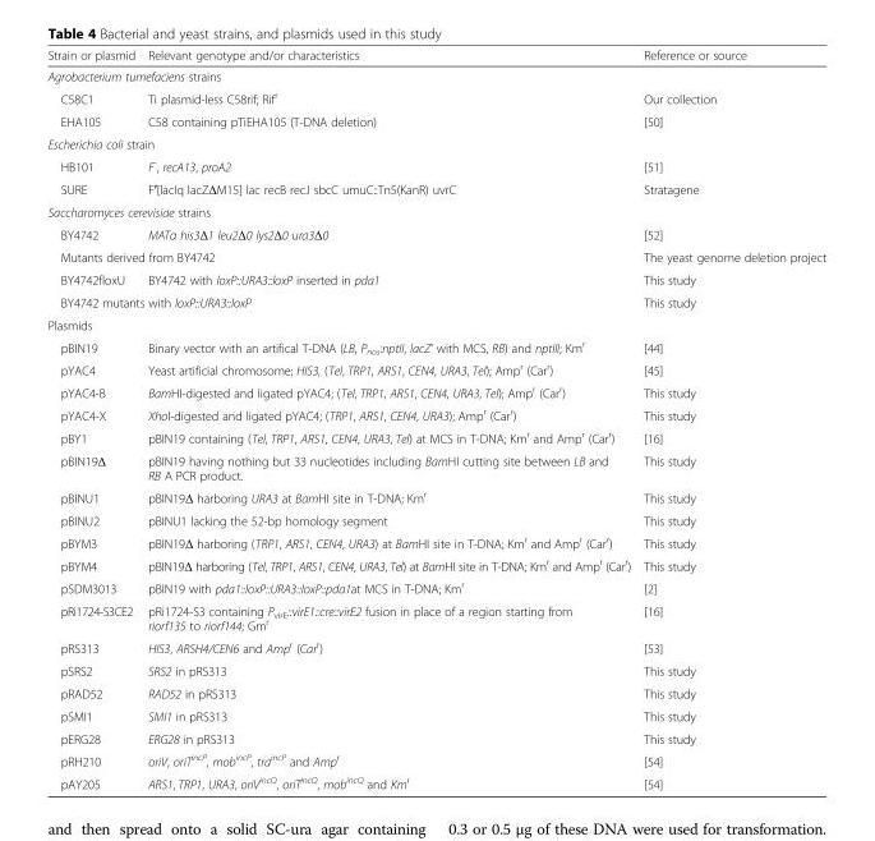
<table><thead><tr><td>Strain or plasmid</td><td>Relevant genotype and/or characteristics</td><td>Reference or source</td></tr></thead><tbody><tr><td colspan="3">Agrobacterium tumefaciens strains</td></tr><tr><td>C58C1</td><td>Ti plasmid-less C58rif; Rif<sup>r</sup></td><td>Our collection</td></tr><tr><td>EHA105</td><td>C58 containing pTiEHA105 (T-DNA deletion)</td><td>[50]</td></tr><tr><td colspan="3">Escherichia coli strain</td></tr><tr><td>HB101</td><td>F<sup>-</sup>, recA13, proA2</td><td>[51]</td></tr><tr><td>SURE</td><td>F′[lacIq lacZΔM15] lac recB recJ sbcC umuC::Tn5(KanR) uvrC</td><td>Stratagene</td></tr><tr><td colspan="3">Saccharomyces cerevisiae strains</td></tr><tr><td>BY4742</td><td>MATα his3Δ1 leu2Δ0 lys2Δ0 ura3Δ0</td><td>[52]</td></tr><tr><td colspan="2">Mutants derived from BY4742</td><td>The yeast genome deletion project</td></tr><tr><td>BY4742floxU</td><td>BY4742 with loxP::URA3::loxP inserted in pda1</td><td>This study</td></tr><tr><td colspan="2">BY4742 mutants with loxP::URA3::loxP</td><td>This study</td></tr><tr><td colspan="3">Plasmids</td></tr><tr><td>pBIN19</td><td>Binary vector with an artifical T-DNA (LB, P<sub>nos</sub>:nptII, lacZ’ with MCS, RB) and nptIII; Km<sup>r</sup></td><td>[44]</td></tr><tr><td>pYAC4</td><td>Yeast artificial chromosome; HIS3, (Tel, TRP1, ARS1, CEN4, URA3, Tel); Amp<sup>r</sup> (Car<sup>r</sup>)</td><td>[45]</td></tr><tr><td>pYAC4-B</td><td>BamHI-digested and ligated pYAC4; (Tel, TRP1, ARS1, CEN4, URA3, Tel); Amp<sup>r</sup> (Car<sup>r</sup>)</td><td>This study</td></tr><tr><td>pYAC4-X</td><td>XhoI-digested and ligated pYAC4; (TRP1, ARS1, CEN4, URA3); Amp<sup>r</sup> (Car<sup>r</sup>)</td><td>This study</td></tr><tr><td>pBY1</td><td>pBIN19 containing (Tel, TRP1, ARS1, CEN4, URA3, Tel) at MCS in T-DNA; Km<sup>r</sup> and Amp<sup>r</sup> (Car<sup>r</sup>)</td><td>[16]</td></tr><tr><td>pBIN19Δ</td><td>pBIN19 having nothing but 33 nucleotides including BamHI cutting site between LB and RB A PCR product.</td><td>This study</td></tr><tr><td>pBINU1</td><td>pBIN19Δ harboring URA3 at BamHI site in T-DNA; Km<sup>r</sup></td><td>This study</td></tr><tr><td>pBINU2</td><td>pBINU1 lacking the 52-bp homology segment</td><td>This study</td></tr><tr><td>pBYM3</td><td>pBIN19Δ harboring (TRP1, ARS1, CEN4, URA3) at BamHI site in T-DNA; Km<sup>r</sup> and Amp<sup>r</sup> (Car<sup>r</sup>)</td><td>This study</td></tr><tr><td>pBYM4</td><td>pBIN19Δ harboring (Tel, TRP1, ARS1, CEN4, URA3, Tel) at BamHI site in T-DNA; Km<sup>r</sup> and Amp<sup>r</sup> (Car<sup>r</sup>)</td><td>This study</td></tr><tr><td>pSDM3013</td><td>pBIN19 with pda1::loxP::URA3::loxP::pda1at MCS in T-DNA; Km<sup>r</sup></td><td>[2]</td></tr><tr><td>pRi1724-S3CE2</td><td>pRi1724-S3 containing P<sub>virE</sub>::virE1::cre::virE2 fusion in place of a region starting from riorf135 to riorf144; Gm<sup>r</sup></td><td>[16]</td></tr><tr><td>pRS313</td><td>HIS3, ARSH4/CEN6 and Amp<sup>r</sup> (Car<sup>r</sup>)</td><td>[53]</td></tr><tr><td>pSRS2</td><td>SRS2 in pRS313</td><td>This study</td></tr><tr><td>pRAD52</td><td>RAD52 in pRS313</td><td>This study</td></tr><tr><td>pSMI1</td><td>SMI1 in pRS313</td><td>This study</td></tr><tr><td>pERG28</td><td>ERG28 in pRS313</td><td>This study</td></tr><tr><td>pRH210</td><td>oriV, oriT<sup>incP</sup>, mob<sup>incP</sup>, tra<sup>incP</sup> and Amp<sup>r</sup></td><td>[54]</td></tr><tr><td>pAY205</td><td>ARS1, TRP1, URA3, oriV<sup>incQ</sup>, oriT<sup>incQ</sup>, mob<sup>incQ</sup> and Km<sup>r</sup></td><td>[54]</td></tr></tbody></table>